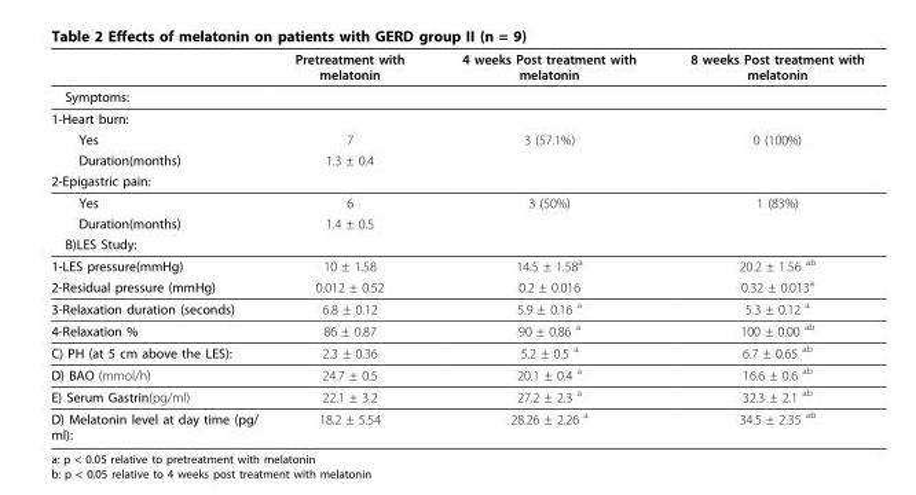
<table><thead><tr><td></td><td>Pretreatment with melatonin</td><td>4 weeks Post treatment with melatonin</td><td>8 weeks Post treatment with melatonin</td></tr></thead><tbody><tr><td colspan="4">Symptoms:</td></tr><tr><td colspan="4">1-Heart burn:</td></tr><tr><td>Yes</td><td>7</td><td>3 (57.1%)</td><td>0 (100%)</td></tr><tr><td>Duration(months)</td><td>1.3 ± 0.4</td><td></td><td></td></tr><tr><td colspan="4">2-Epigastric pain:</td></tr><tr><td>Yes</td><td>6</td><td>3 (50%)</td><td>1 (83%)</td></tr><tr><td>Duration(months)</td><td>1.4 ± 0.5</td><td></td><td></td></tr><tr><td colspan="4">B)LES Study:</td></tr><tr><td>1-LES pressure(mmHg)</td><td>10 ± 1.58</td><td>14.5 ± 1.58<sup>a</sup></td><td>20.2 ± 1.56 <sup>ab</sup></td></tr><tr><td>2-Residual pressure (mmHg)</td><td>0.012 ± 0.52</td><td>0.2 ± 0.016</td><td>0.32 ± 0.013<sup>a</sup></td></tr><tr><td>3-Relaxation duration (seconds)</td><td>6.8 ± 0.12</td><td>5.9 ± 0.16 <sup>a</sup></td><td>5.3 ± 0.12 <sup>a</sup></td></tr><tr><td>4-Relaxation %</td><td>86 ± 0.87</td><td>90 ± 0.86 <sup>a</sup></td><td>100 ± 0.00 <sup>ab</sup></td></tr><tr><td>C) PH (at 5 cm above the LES):</td><td>2.3 ± 0.36</td><td>5.2 ± 0.5 <sup>a</sup></td><td>6.7 ± 0.65 <sup>ab</sup></td></tr><tr><td>D) BAO (mmol/h)</td><td>24.7 ± 0.5</td><td>20.1 ± 0.4 <sup>a</sup></td><td>16.6 ± 0.6 <sup>ab</sup></td></tr><tr><td>E) Serum Gastrin(pg/ml)</td><td>22.1 ± 3.2</td><td>27.2 ± 2.3 <sup>a</sup></td><td>32.3 ± 2.1 <sup>ab</sup></td></tr><tr><td>D) Melatonin level at day time (pg/ ml):</td><td>18.2 ± 5.54</td><td>28.26 ± 2.26 <sup>a</sup></td><td>34.5 ± 2.35 <sup>ab</sup></td></tr></tbody></table>